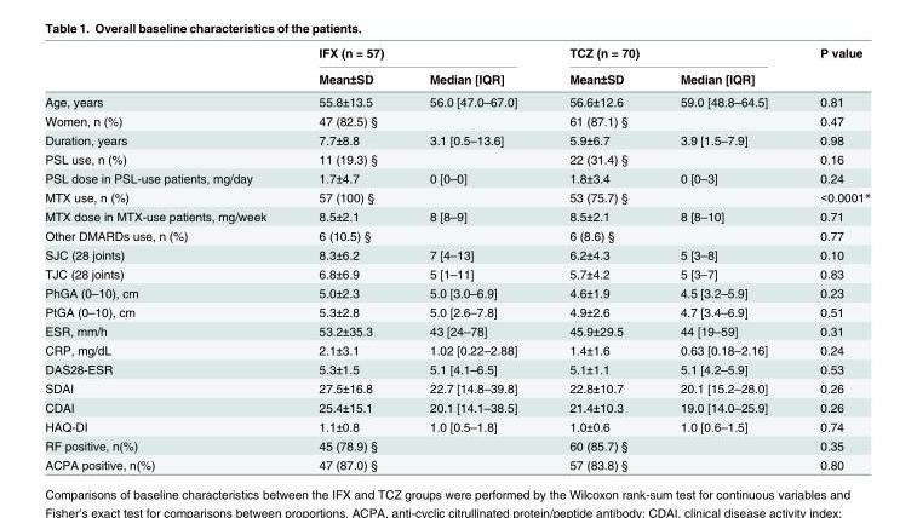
<table><thead><tr><td rowspan="2"></td><td colspan="2">IFX (n = 57)</td><td colspan="2">TCZ (n = 70)</td><td rowspan="2">P value</td></tr><tr><td>Mean±SD</td><td>Median [IQR]</td><td>Mean±SD</td><td>Median [IQR]</td></tr></thead><tbody><tr><td>Age, years</td><td>55.8±13.5</td><td>56.0 [47.0–67.0]</td><td>56.6±12.6</td><td>59.0 [48.8–64.5]</td><td>0.81</td></tr><tr><td>Women, n (%)</td><td>47 (82.5) §</td><td></td><td>61 (87.1) §</td><td></td><td>0.47</td></tr><tr><td>Duration, years</td><td>7.7±8.8</td><td>3.1 [0.5–13.6]</td><td>5.9±6.7</td><td>3.9 [1.5–7.9]</td><td>0.98</td></tr><tr><td>PSL use, n (%)</td><td>11 (19.3) §</td><td></td><td>22 (31.4) §</td><td></td><td>0.16</td></tr><tr><td>PSL dose in PSL-use patients, mg/day</td><td>1.7±4.7</td><td>0 [0–0]</td><td>1.8±3.4</td><td>0 [0–3]</td><td>0.24</td></tr><tr><td>MTX use, n (%)</td><td>57 (100) §</td><td></td><td>53 (75.7) §</td><td></td><td>&lt;0.0001*</td></tr><tr><td>MTX dose in MTX-use patients, mg/week</td><td>8.5±2.1</td><td>8 [8–9]</td><td>8.5±2.1</td><td>8 [8–10]</td><td>0.71</td></tr><tr><td>Other DMARDs use, n (%)</td><td>6 (10.5) §</td><td></td><td>6 (8.6) §</td><td></td><td>0.77</td></tr><tr><td>SJC (28 joints)</td><td>8.3±6.2</td><td>7 [4–13]</td><td>6.2±4.3</td><td>5 [3–8]</td><td>0.10</td></tr><tr><td>TJC (28 joints)</td><td>6.8±6.9</td><td>5 [1–11]</td><td>5.7±4.2</td><td>5 [3–7]</td><td>0.83</td></tr><tr><td>PhGA (0–10), cm</td><td>5.0±2.3</td><td>5.0 [3.0–6.9]</td><td>4.6±1.9</td><td>4.5 [3.2–5.9]</td><td>0.23</td></tr><tr><td>PtGA (0–10), cm</td><td>5.3±2.8</td><td>5.0 [2.6–7.8]</td><td>4.9±2.6</td><td>4.7 [3.4–6.9]</td><td>0.51</td></tr><tr><td>ESR, mm/h</td><td>53.2±35.3</td><td>43 [24–78]</td><td>45.9±29.5</td><td>44 [19–59]</td><td>0.31</td></tr><tr><td>CRP, mg/dL</td><td>2.1±3.1</td><td>1.02 [0.22–2.88]</td><td>1.4±1.6</td><td>0.63 [0.18–2.16]</td><td>0.24</td></tr><tr><td>DAS28-ESR</td><td>5.3±1.5</td><td>5.1 [4.1–6.5]</td><td>5.1±1.1</td><td>5.1 [4.2–5.9]</td><td>0.53</td></tr><tr><td>SDAI</td><td>27.5±16.8</td><td>22.7 [14.8–39.8]</td><td>22.8±10.7</td><td>20.1 [15.2–28.0]</td><td>0.26</td></tr><tr><td>CDAI</td><td>25.4±15.1</td><td>20.1 [14.1–38.5]</td><td>21.4±10.3</td><td>19.0 [14.0–25.9]</td><td>0.26</td></tr><tr><td>HAQ-DI</td><td>1.1±0.8</td><td>1.0 [0.5–1.8]</td><td>1.0±0.6</td><td>1.0 [0.6–1.5]</td><td>0.74</td></tr><tr><td>RF positive, n(%)</td><td>45 (78.9) §</td><td></td><td>60 (85.7) §</td><td></td><td>0.35</td></tr><tr><td>ACPA positive, n(%)</td><td>47 (87.0) §</td><td></td><td>57 (83.8) §</td><td></td><td>0.80</td></tr></tbody></table>